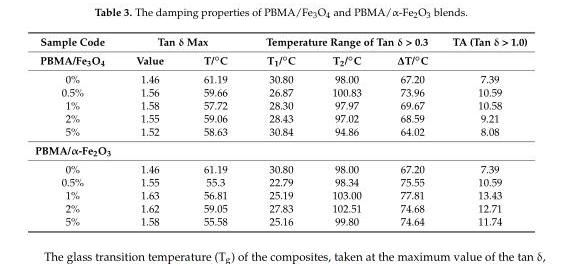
<table><thead><tr><td rowspan="2">Sample Code PBMA/Fe<sub>3</sub>O<sub>4</sub></td><td colspan="2">Tan δ Max</td><td colspan="3">Temperature Range of Tan δ &gt; 0.3</td><td rowspan="2">TA (Tan δ &gt; 1.0)</td></tr><tr><td>Value</td><td>T/◦C</td><td>T1/◦C</td><td>T2/◦C</td><td>∆T/◦C</td></tr></thead><tbody><tr><td>0%</td><td>1.46</td><td>61.19</td><td>30.80</td><td>98.00</td><td>67.20</td><td>7.39</td></tr><tr><td>0.5%</td><td>1.56</td><td>59.66</td><td>26.87</td><td>100.83</td><td>73.96</td><td>10.59</td></tr><tr><td>1%</td><td>1.58</td><td>57.72</td><td>28.30</td><td>97.97</td><td>69.67</td><td>10.58</td></tr><tr><td>2%</td><td>1.55</td><td>59.06</td><td>28.43</td><td>97.02</td><td>68.59</td><td>9.21</td></tr><tr><td>5%</td><td>1.52</td><td>58.63</td><td>30.84</td><td>94.86</td><td>64.02</td><td>8.08</td></tr><tr><td colspan="7">PBMA/α-Fe<sub>2</sub>O<sub>3</sub></td></tr><tr><td>0%</td><td>1.46</td><td>61.19</td><td>30.80</td><td>98.00</td><td>67.20</td><td>7.39</td></tr><tr><td>0.5%</td><td>1.55</td><td>55.3</td><td>22.79</td><td>98.34</td><td>75.55</td><td>10.59</td></tr><tr><td>1%</td><td>1.63</td><td>56.81</td><td>25.19</td><td>103.00</td><td>77.81</td><td>13.43</td></tr><tr><td>2%</td><td>1.62</td><td>59.05</td><td>27.83</td><td>102.51</td><td>74.68</td><td>12.71</td></tr><tr><td>5%</td><td>1.58</td><td>55.58</td><td>25.16</td><td>99.80</td><td>74.64</td><td>11.74</td></tr></tbody></table>